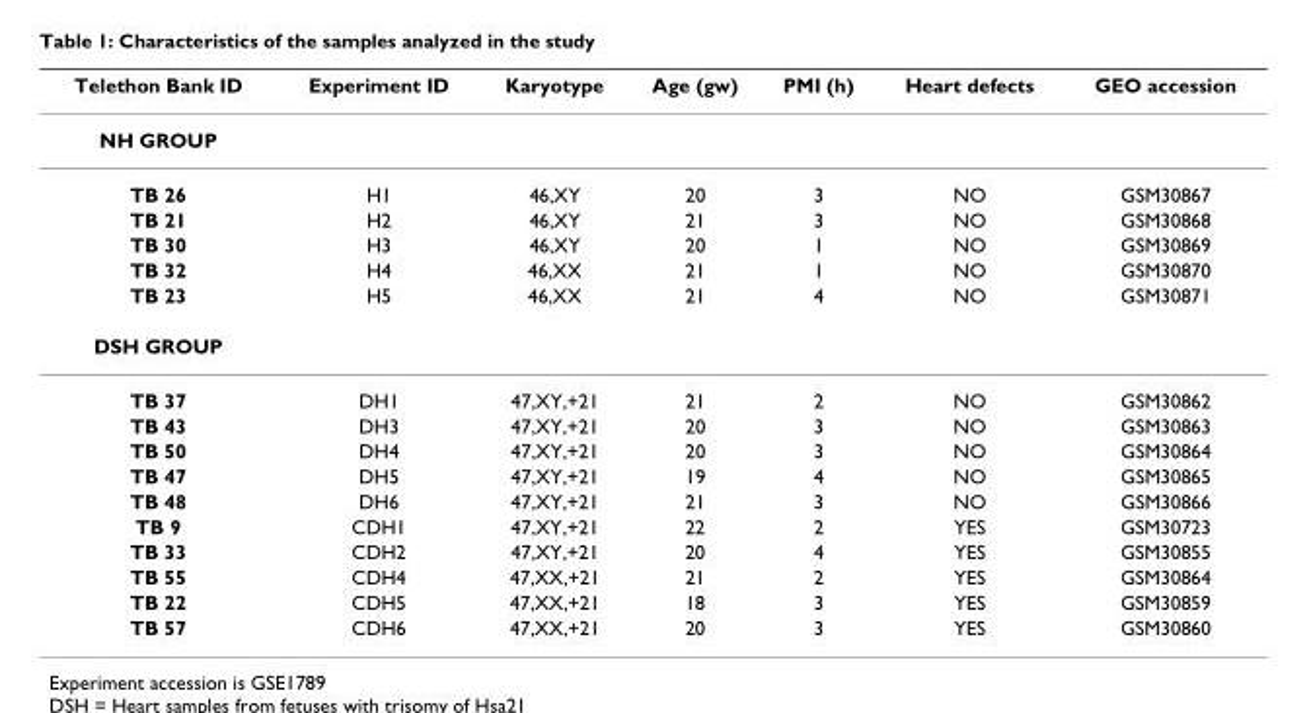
<table><thead><tr><td>Telethon Bank ID</td><td>Experiment ID</td><td>Karyotype</td><td>Age (gw)</td><td>PMI (h)</td><td>Heart defects</td><td>GEO accession</td></tr></thead><tbody><tr><td colspan="7">NH GROUP</td></tr><tr><td>TB 26</td><td>H1</td><td>46,XY</td><td>20</td><td>3</td><td>NO</td><td>GSM30867</td></tr><tr><td>TB 21</td><td>H2</td><td>46,XY</td><td>21</td><td>3</td><td>NO</td><td>GSM30868</td></tr><tr><td>TB 30</td><td>H3</td><td>46,XY</td><td>20</td><td>1</td><td>NO</td><td>GSM30869</td></tr><tr><td>TB 32</td><td>H4</td><td>46,XX</td><td>21</td><td>1</td><td>NO</td><td>GSM30870</td></tr><tr><td>TB 23</td><td>H5</td><td>46,XX</td><td>21</td><td>4</td><td>NO</td><td>GSM30871</td></tr><tr><td colspan="7">DSH GROUP</td></tr><tr><td>TB 37</td><td>DH1</td><td>47,XY,+21</td><td>21</td><td>2</td><td>NO</td><td>GSM30862</td></tr><tr><td>TB 43</td><td>DH3</td><td>47,XY,+21</td><td>20</td><td>3</td><td>NO</td><td>GSM30863</td></tr><tr><td>TB 50</td><td>DH4</td><td>47,XY,+21</td><td>20</td><td>3</td><td>NO</td><td>GSM30864</td></tr><tr><td>TB 47</td><td>DH5</td><td>47,XY,+21</td><td>19</td><td>4</td><td>NO</td><td>GSM30865</td></tr><tr><td>TB 48</td><td>DH6</td><td>47,XY,+21</td><td>21</td><td>3</td><td>NO</td><td>GSM30866</td></tr><tr><td>TB 9</td><td>CDH1</td><td>47,XY,+21</td><td>22</td><td>2</td><td>YES</td><td>GSM30723</td></tr><tr><td>TB 33</td><td>CDH2</td><td>47,XY,+21</td><td>20</td><td>4</td><td>YES</td><td>GSM30855</td></tr><tr><td>TB 55</td><td>CDH4</td><td>47,XX,+21</td><td>21</td><td>2</td><td>YES</td><td>GSM30864</td></tr><tr><td>TB 22</td><td>CDH5</td><td>47,XX,+21</td><td>18</td><td>3</td><td>YES</td><td>GSM30859</td></tr><tr><td>TB 57</td><td>CDH6</td><td>47,XX,+21</td><td>20</td><td>3</td><td>YES</td><td>GSM30860</td></tr></tbody></table>